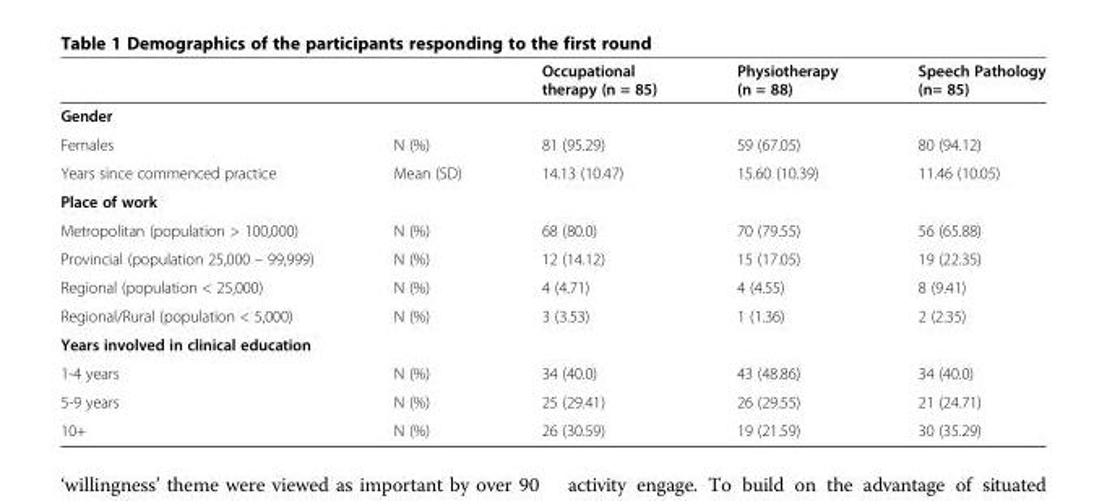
<table><thead><tr><td></td><td></td><td>Occupational therapy (n = 85)</td><td>Physiotherapy (n = 88)</td><td>Speech Pathology (n= 85)</td></tr></thead><tbody><tr><td colspan="5">Gender</td></tr><tr><td>Females</td><td>N (%)</td><td>81 (95.29)</td><td>59 (67.05)</td><td>80 (94.12)</td></tr><tr><td>Years since commenced practice</td><td>Mean (SD)</td><td>14.13 (10.47)</td><td>15.60 (10.39)</td><td>11.46 (10.05)</td></tr><tr><td colspan="5">Place of work</td></tr><tr><td>Metropolitan (population &gt; 100,000)</td><td>N (%)</td><td>68 (80.0)</td><td>70 (79.55)</td><td>56 (65.88)</td></tr><tr><td>Provincial (population 25,000 – 99,999)</td><td>N (%)</td><td>12 (14.12)</td><td>15 (17.05)</td><td>19 (22.35)</td></tr><tr><td>Regional (population &lt; 25,000)</td><td>N (%)</td><td>4 (4.71)</td><td>4 (4.55)</td><td>8 (9.41)</td></tr><tr><td>Regional/Rural (population &lt; 5,000)</td><td>N (%)</td><td>3 (3.53)</td><td>1 (1.36)</td><td>2 (2.35)</td></tr><tr><td colspan="5">Years involved in clinical education</td></tr><tr><td>1-4 years</td><td>N (%)</td><td>34 (40.0)</td><td>43 (48.86)</td><td>34 (40.0)</td></tr><tr><td>5-9 years</td><td>N (%)</td><td>25 (29.41)</td><td>26 (29.55)</td><td>21 (24.71)</td></tr><tr><td>10+</td><td>N (%)</td><td>26 (30.59)</td><td>19 (21.59)</td><td>30 (35.29)</td></tr></tbody></table>